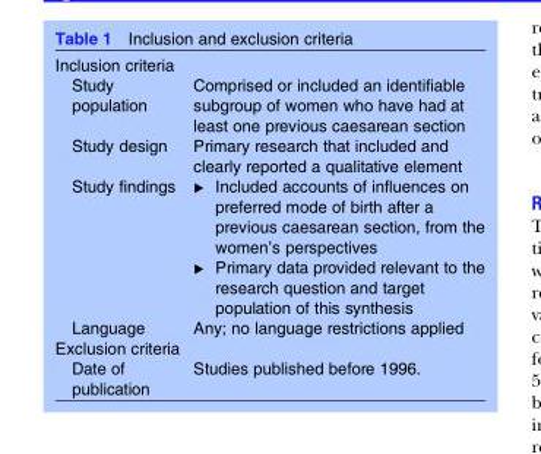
<table><tbody><tr><td colspan="2">Inclusion criteria</td></tr><tr><td>Study population</td><td>Comprised or included an identifiable subgroup of women who have had at least one previous caesarean section</td></tr><tr><td>Study design</td><td>Primary research that included and clearly reported a qualitative element</td></tr><tr><td>Study findings</td><td>▸ Included accounts of influences on preferred mode of birth after a previous caesarean section, from the women’s perspectives ▸ Primary data provided relevant to the research question and target population of this synthesis</td></tr><tr><td>Language</td><td>Any; no language restrictions applied</td></tr><tr><td colspan="2">Exclusion criteria</td></tr><tr><td>Date of publication</td><td>Studies published before 1996.</td></tr></tbody></table>